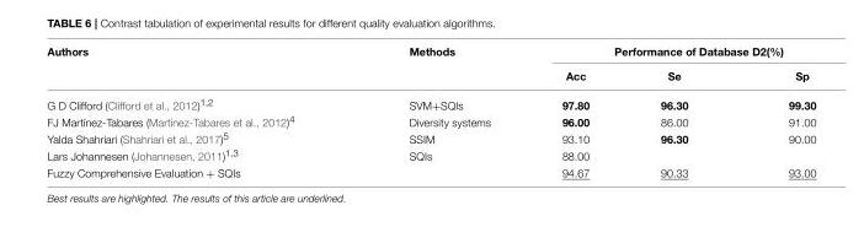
<table><thead><tr><td rowspan="2">Authors</td><td rowspan="2">Methods</td><td colspan="3">Performance of Database D2(%)</td></tr><tr><td>Acc</td><td>Se</td><td>Sp</td></tr></thead><tbody><tr><td>G D Clifford (Clifford et al., 2012)<sup>1,2</sup></td><td>SVM+SQIs</td><td>97.80</td><td>96.30</td><td>99.30</td></tr><tr><td>FJ Martínez-Tabares (Martínez-Tabares et al., 2012)<sup>4</sup></td><td>Diversity systems</td><td>96.00</td><td>86.00</td><td>91.00</td></tr><tr><td>Yalda Shahriari (Shahriari et al., 2017)<sup>5</sup></td><td>SSIM</td><td>93.10</td><td>96.30</td><td>90.00</td></tr><tr><td>Lars Johannesen (Johannesen, 2011)<sup>1,3</sup></td><td>SQIs</td><td>88.00</td><td></td><td></td></tr><tr><td>Fuzzy Comprehensive Evaluation + SQIs</td><td></td><td>94.67</td><td>90.33</td><td>93.00</td></tr></tbody></table>